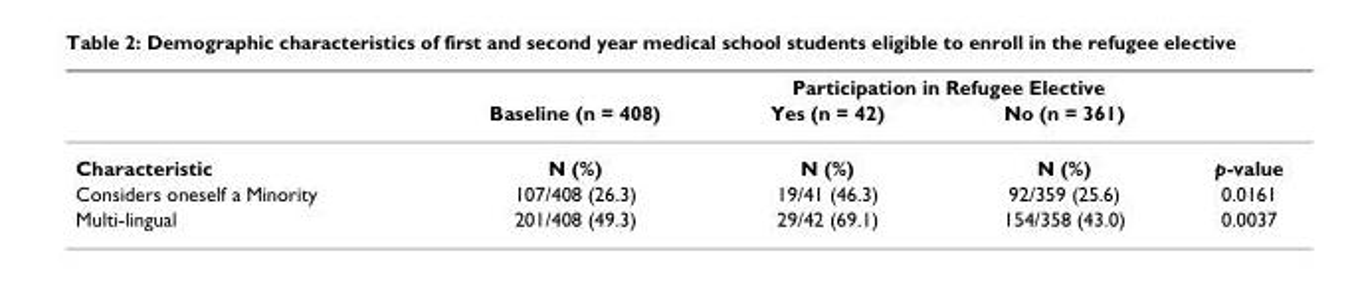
<table><thead><tr><td rowspan="2"></td><td rowspan="2">Baseline (n = 408)</td><td colspan="2">Participation in Refugee Elective</td><td rowspan="2"></td></tr><tr><td>Yes (n = 42)</td><td>No (n = 361)</td></tr></thead><tbody><tr><td>Characteristic</td><td>N (%)</td><td>N (%)</td><td>N (%)</td><td>p-value</td></tr><tr><td>Considers oneself a Minority</td><td>107/408 (26.3)</td><td>19/41 (46.3)</td><td>92/359 (25.6)</td><td>0.0161</td></tr><tr><td>Multi-lingual</td><td>201/408 (49.3)</td><td>29/42 (69.1)</td><td>154/358 (43.0)</td><td>0.0037</td></tr></tbody></table>